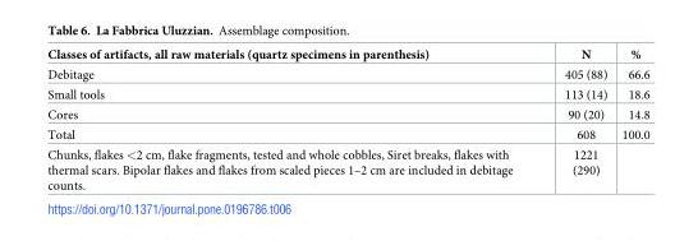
<table><thead><tr><td>Classes of artifacts, all raw materials (quartz specimens in parenthesis)</td><td>N</td><td>%</td></tr></thead><tbody><tr><td>Debitage</td><td>405 (88)</td><td>66.6</td></tr><tr><td>Small tools</td><td>113 (14)</td><td>18.6</td></tr><tr><td>Cores</td><td>90 (20)</td><td>14.8</td></tr><tr><td>Total</td><td>608</td><td>100.0</td></tr><tr><td>Chunks, flakes &lt;2 cm, flake fragments, tested and whole cobbles, Siret breaks, flakes with thermal scars. Bipolar flakes and flakes from scaled pieces 1–2 cm are included in debitage counts.</td><td>1221 (290)</td><td></td></tr></tbody></table>